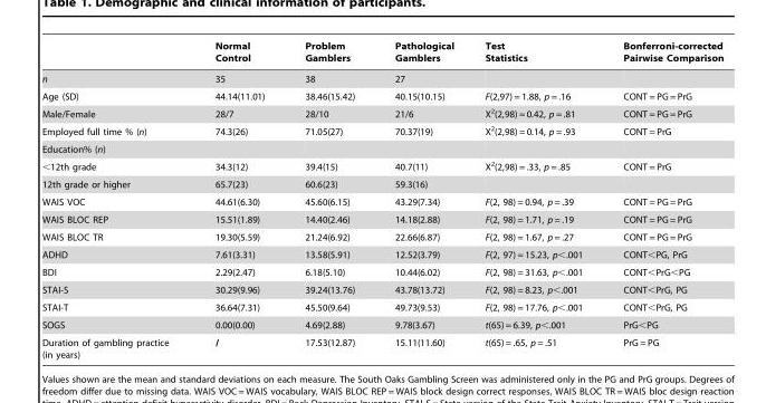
<table><thead><tr><td></td><td>Normal Control</td><td>Problem Gamblers</td><td>Pathological Gamblers</td><td>Test Statistics</td><td>Bonferroni-corrected Pairwise Comparison</td></tr></thead><tbody><tr><td>n</td><td>35</td><td>38</td><td>27</td><td></td><td></td></tr><tr><td>Age (SD)</td><td>44.14(11.01)</td><td>38.46(15.42)</td><td>40.15(10.15)</td><td>F(2,97) = 1.88, p = .16</td><td>CONT = PG = PrG</td></tr><tr><td>Male/Female</td><td>28/7</td><td>28/10</td><td>21/6</td><td>X<sup>2</sup>(2,98) = 0.42, p = .81</td><td>CONT = PG = PrG</td></tr><tr><td>Employed full time % (n)</td><td>74.3(26)</td><td>71.05(27)</td><td>70.37(19)</td><td>X<sup>2</sup>(2,98) = 0.14, p = .93</td><td>CONT = PrG</td></tr><tr><td colspan="6">Education% (n)</td></tr><tr><td>&lt;12th grade</td><td>34.3(12)</td><td>39.4(15)</td><td>40.7(11)</td><td>X<sup>2</sup>(2,98) = .33, p = .85</td><td>CONT = PrG</td></tr><tr><td>12th grade or higher</td><td>65.7(23)</td><td>60.6(23)</td><td>59.3(16)</td><td></td><td></td></tr><tr><td>WAIS VOC</td><td>44.61(6.30)</td><td>45.60(6.15)</td><td>43.29(7.34)</td><td>F(2, 98) = 0.94, p = .39</td><td>CONT = PG = PrG</td></tr><tr><td>WAIS BLOC REP</td><td>15.51(1.89)</td><td>14.40(2.46)</td><td>14.18(2.88)</td><td>F(2, 98) = 1.71, p = .19</td><td>CONT = PG = PrG</td></tr><tr><td>WAIS BLOC TR</td><td>19.30(5.59)</td><td>21.24(6.92)</td><td>22.66(6.87)</td><td>F(2, 98) = 1.67, p = .27</td><td>CONT = PG = PrG</td></tr><tr><td>ADHD</td><td>7.61(3.31)</td><td>13.58(5.91)</td><td>12.52(3.79)</td><td>F(2, 97) = 15.23, p&lt;.001</td><td>CONT&lt;PG, PrG</td></tr><tr><td>BDI</td><td>2.29(2.47)</td><td>6.18(5.10)</td><td>10.44(6.02)</td><td>F(2, 98) = 31.63, p&lt;.001</td><td>CONT&lt;PrG&lt;PG</td></tr><tr><td>STAI-S</td><td>30.29(9.96)</td><td>39.24(13.76)</td><td>43.78(13.72)</td><td>F(2, 98) = 8.23, p&lt;.001</td><td>CONT&lt;PrG, PG</td></tr><tr><td>STAI-T</td><td>36.64(7.31)</td><td>45.50(9.64)</td><td>49.73(9.53)</td><td>F(2, 98) = 17.76, p&lt;.001</td><td>CONT&lt;PrG, PG</td></tr><tr><td>SOGS</td><td>0.00(0.00)</td><td>4.69(2.88)</td><td>9.78(3.67)</td><td>t(65) = 6.39, p&lt;.001</td><td>PrG&lt;PG</td></tr><tr><td>Duration of gambling practice (in years)</td><td>/</td><td>17.53(12.87)</td><td>15.11(11.60)</td><td>t(65) = .65, p = .51</td><td>PrG = PG</td></tr></tbody></table>